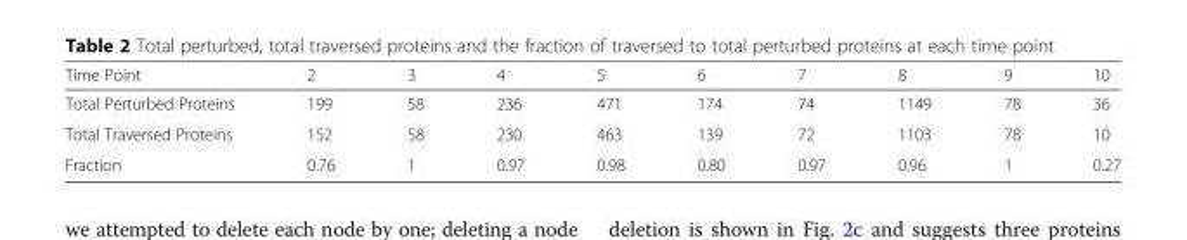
<table><thead><tr><td>Time Point</td><td>2</td><td>3</td><td>4</td><td>5</td><td>6</td><td>7</td><td>8</td><td>9</td><td>10</td></tr></thead><tbody><tr><td>Total Perturbed Proteins</td><td>199</td><td>58</td><td>236</td><td>471</td><td>174</td><td>74</td><td>1149</td><td>78</td><td>36</td></tr><tr><td>Total Traversed Proteins</td><td>152</td><td>58</td><td>230</td><td>463</td><td>139</td><td>72</td><td>1103</td><td>78</td><td>10</td></tr><tr><td>Fraction</td><td>0.76</td><td>1</td><td>0.97</td><td>0.98</td><td>0.80</td><td>0.97</td><td>0.96</td><td>1</td><td>0.27</td></tr></tbody></table>